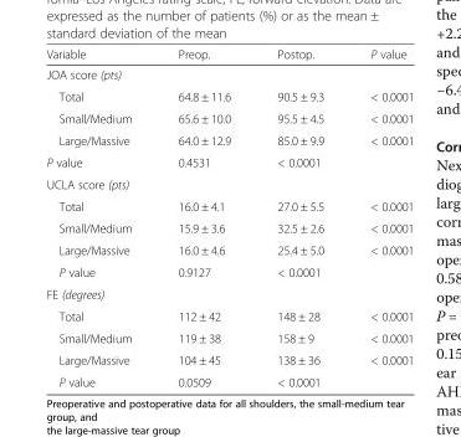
<table><thead><tr><td>Variable</td><td>Preop.</td><td>Postop.</td><td>P value</td></tr></thead><tbody><tr><td colspan="4">JOA score (pts)</td></tr><tr><td>Total</td><td>64.8 ± 11.6</td><td>90.5 ± 9.3</td><td>&lt; 0.0001</td></tr><tr><td>Small/Medium</td><td>65.6 ± 10.0</td><td>95.5 ± 4.5</td><td>&lt; 0.0001</td></tr><tr><td>Large/Massive</td><td>64.0 ± 12.9</td><td>85.0 ± 9.9</td><td>&lt; 0.0001</td></tr><tr><td>P value</td><td>0.4531</td><td>&lt; 0.0001</td><td></td></tr><tr><td colspan="4">UCLA score (pts)</td></tr><tr><td>Total</td><td>16.0 ± 4.1</td><td>27.0 ± 5.5</td><td>&lt; 0.0001</td></tr><tr><td>Small/Medium</td><td>15.9 ± 3.6</td><td>32.5 ± 2.6</td><td>&lt; 0.0001</td></tr><tr><td>Large/Massive</td><td>16.0 ± 4.6</td><td>25.4 ± 5.0</td><td>&lt; 0.0001</td></tr><tr><td>P value</td><td>0.9127</td><td>&lt; 0.0001</td><td></td></tr><tr><td colspan="4">FE (degrees)</td></tr><tr><td>Total</td><td>112 ± 42</td><td>148 ± 28</td><td>&lt; 0.0001</td></tr><tr><td>Small/Medium</td><td>119 ± 38</td><td>158 ± 9</td><td>&lt; 0.0001</td></tr><tr><td>Large/Massive</td><td>104 ± 45</td><td>138 ± 36</td><td>&lt; 0.0001</td></tr><tr><td>P value</td><td>0.0509</td><td>&lt; 0.0001</td><td></td></tr></tbody></table>